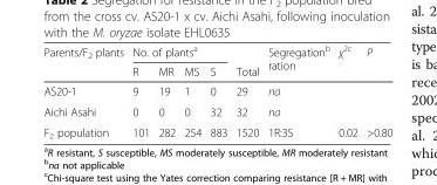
<table><thead><tr><td rowspan="2">Parents/F<sub>2</sub> plants</td><td colspan="4">No. of plants<sup>a</sup></td><td rowspan="2">Total</td><td rowspan="2">Segregation<sup>b</sup> ration</td><td rowspan="2">χ<sup>2c</sup></td><td rowspan="2">P</td></tr><tr><td>R</td><td>MR</td><td>MS</td><td>S</td></tr></thead><tbody><tr><td>AS20-1</td><td>9</td><td>19</td><td>1</td><td>0</td><td>29</td><td>na</td><td></td><td></td></tr><tr><td>Aichi Asahi</td><td>0</td><td>0</td><td>0</td><td>32</td><td>32</td><td>na</td><td></td><td></td></tr><tr><td>F<sub>2</sub> population</td><td>101</td><td>282</td><td>254</td><td>883</td><td>1520</td><td>1R:3S</td><td>0.02</td><td>&gt;0.80</td></tr></tbody></table>